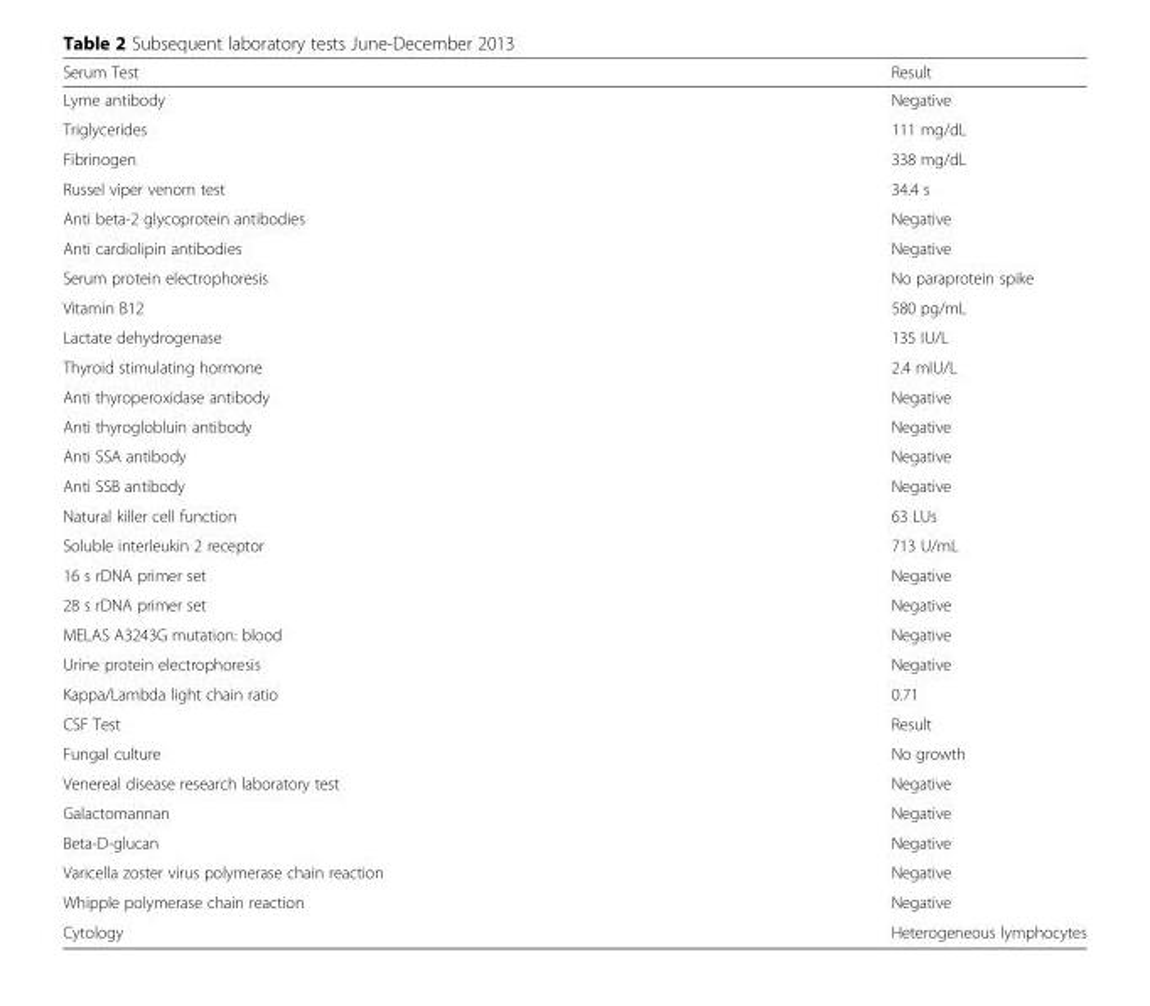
<table><thead><tr><td>Serum Test</td><td>Result</td></tr></thead><tbody><tr><td>Lyme antibody</td><td>Negative</td></tr><tr><td>Triglycerides</td><td>111 mg/dL</td></tr><tr><td>Fibrinogen</td><td>338 mg/dL</td></tr><tr><td>Russel viper venom test</td><td>34.4 s</td></tr><tr><td>Anti beta-2 glycoprotein antibodies</td><td>Negative</td></tr><tr><td>Anti cardiolipin antibodies</td><td>Negative</td></tr><tr><td>Serum protein electrophoresis</td><td>No paraprotein spike</td></tr><tr><td>Vitamin B12</td><td>580 pg/mL</td></tr><tr><td>Lactate dehydrogenase</td><td>135 IU/L</td></tr><tr><td>Thyroid stimulating hormone</td><td>2.4 mIU/L</td></tr><tr><td>Anti thyroperoxidase antibody</td><td>Negative</td></tr><tr><td>Anti thyroglobluin antibody</td><td>Negative</td></tr><tr><td>Anti SSA antibody</td><td>Negative</td></tr><tr><td>Anti SSB antibody</td><td>Negative</td></tr><tr><td>Natural killer cell function</td><td>63 LUs</td></tr><tr><td>Soluble interleukin 2 receptor</td><td>713 U/mL</td></tr><tr><td>16 s rDNA primer set</td><td>Negative</td></tr><tr><td>28 s rDNA primer set</td><td>Negative</td></tr><tr><td>MELAS A3243G mutation: blood</td><td>Negative</td></tr><tr><td>Urine protein electrophoresis</td><td>Negative</td></tr><tr><td>Kappa/Lambda light chain ratio</td><td>0.71</td></tr><tr><td>CSF Test</td><td>Result</td></tr><tr><td>Fungal culture</td><td>No growth</td></tr><tr><td>Venereal disease research laboratory test</td><td>Negative</td></tr><tr><td>Galactomannan</td><td>Negative</td></tr><tr><td>Beta-D-glucan</td><td>Negative</td></tr><tr><td>Varicella zoster virus polymerase chain reaction</td><td>Negative</td></tr><tr><td>Whipple polymerase chain reaction</td><td>Negative</td></tr><tr><td>Cytology</td><td>Heterogeneous lymphocytes</td></tr></tbody></table>